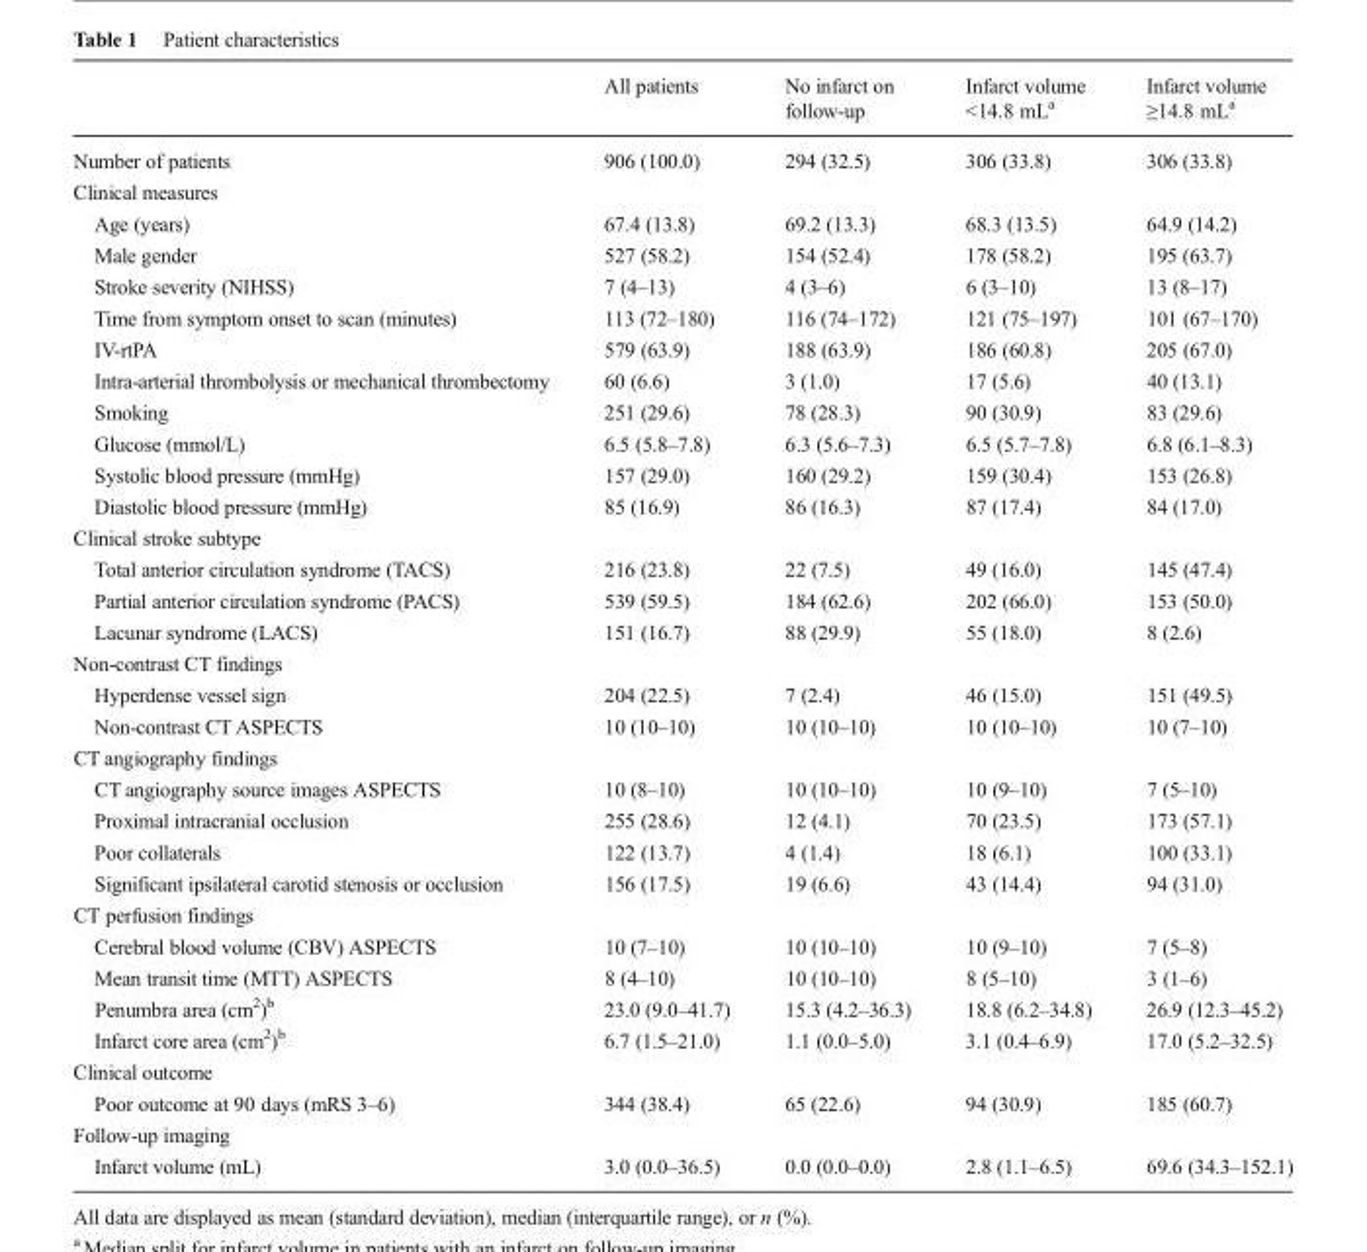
<table><thead><tr><td></td><td>All patients</td><td>No infarct on follow-up</td><td>Infarct volume &lt;14.8 mL<sup>a</sup></td><td>Infarct volume ≥14.8 mL<sup>a</sup></td></tr></thead><tbody><tr><td>Number of patients</td><td>906 (100.0)</td><td>294 (32.5)</td><td>306 (33.8)</td><td>306 (33.8)</td></tr><tr><td colspan="5">Clinical measures</td></tr><tr><td>Age (years)</td><td>67.4 (13.8)</td><td>69.2 (13.3)</td><td>68.3 (13.5)</td><td>64.9 (14.2)</td></tr><tr><td>Male gender</td><td>527 (58.2)</td><td>154 (52.4)</td><td>178 (58.2)</td><td>195 (63.7)</td></tr><tr><td>Stroke severity (NIHSS)</td><td>7 (4–13)</td><td>4 (3–6)</td><td>6 (3–10)</td><td>13 (8–17)</td></tr><tr><td>Time from symptom onset to scan (minutes)</td><td>113 (72–180)</td><td>116 (74–172)</td><td>121 (75–197)</td><td>101 (67–170)</td></tr><tr><td>IV-rtPA</td><td>579 (63.9)</td><td>188 (63.9)</td><td>186 (60.8)</td><td>205 (67.0)</td></tr><tr><td>Intra-arterial thrombolysis or mechanical thrombectomy</td><td>60 (6.6)</td><td>3 (1.0)</td><td>17 (5.6)</td><td>40 (13.1)</td></tr><tr><td>Smoking</td><td>251 (29.6)</td><td>78 (28.3)</td><td>90 (30.9)</td><td>83 (29.6)</td></tr><tr><td>Glucose (mmol/L)</td><td>6.5 (5.8–7.8)</td><td>6.3 (5.6–7.3)</td><td>6.5 (5.7–7.8)</td><td>6.8 (6.1–8.3)</td></tr><tr><td>Systolic blood pressure (mmHg)</td><td>157 (29.0)</td><td>160 (29.2)</td><td>159 (30.4)</td><td>153 (26.8)</td></tr><tr><td>Diastolic blood pressure (mmHg)</td><td>85 (16.9)</td><td>86 (16.3)</td><td>87 (17.4)</td><td>84 (17.0)</td></tr><tr><td colspan="5">Clinical stroke subtype</td></tr><tr><td>Total anterior circulation syndrome (TACS)</td><td>216 (23.8)</td><td>22 (7.5)</td><td>49 (16.0)</td><td>145 (47.4)</td></tr><tr><td>Partial anterior circulation syndrome (PACS)</td><td>539 (59.5)</td><td>184 (62.6)</td><td>202 (66.0)</td><td>153 (50.0)</td></tr><tr><td>Lacunar syndrome (LACS)</td><td>151 (16.7)</td><td>88 (29.9)</td><td>55 (18.0)</td><td>8 (2.6)</td></tr><tr><td colspan="5">Non-contrast CT findings</td></tr><tr><td>Hyperdense vessel sign</td><td>204 (22.5)</td><td>7 (2.4)</td><td>46 (15.0)</td><td>151 (49.5)</td></tr><tr><td>Non-contrast CT ASPECTS</td><td>10 (10–10)</td><td>10 (10–10)</td><td>10 (10–10)</td><td>10 (7–10)</td></tr><tr><td colspan="5">CT angiography findings</td></tr><tr><td>CT angiography source images ASPECTS</td><td>10 (8–10)</td><td>10 (10–10)</td><td>10 (9–10)</td><td>7 (5–10)</td></tr><tr><td>Proximal intracranial occlusion</td><td>255 (28.6)</td><td>12 (4.1)</td><td>70 (23.5)</td><td>173 (57.1)</td></tr><tr><td>Poor collaterals</td><td>122 (13.7)</td><td>4 (1.4)</td><td>18 (6.1)</td><td>100 (33.1)</td></tr><tr><td>Significant ipsilateral carotid stenosis or occlusion</td><td>156 (17.5)</td><td>19 (6.6)</td><td>43 (14.4)</td><td>94 (31.0)</td></tr><tr><td colspan="5">CT perfusion findings</td></tr><tr><td>Cerebral blood volume (CBV) ASPECTS</td><td>10 (7–10)</td><td>10 (10–10)</td><td>10 (9–10)</td><td>7 (5–8)</td></tr><tr><td>Mean transit time (MTT) ASPECTS</td><td>8 (4–10)</td><td>10 (10–10)</td><td>8 (5–10)</td><td>3 (1–6)</td></tr><tr><td>Penumbra area (cm<sup>2</sup>)<sup>b</sup></td><td>23.0 (9.0–41.7)</td><td>15.3 (4.2–36.3)</td><td>18.8 (6.2–34.8)</td><td>26.9 (12.3–45.2)</td></tr><tr><td>Infarct core area (cm<sup>2</sup>)<sup>b</sup></td><td>6.7 (1.5–21.0)</td><td>1.1 (0.0–5.0)</td><td>3.1 (0.4–6.9)</td><td>17.0 (5.2–32.5)</td></tr><tr><td colspan="5">Clinical outcome</td></tr><tr><td>Poor outcome at 90 days (mRS 3–6)</td><td>344 (38.4)</td><td>65 (22.6)</td><td>94 (30.9)</td><td>185 (60.7)</td></tr><tr><td colspan="5">Follow-up imaging</td></tr><tr><td>Infarct volume (mL)</td><td>3.0 (0.0–36.5)</td><td>0.0 (0.0–0.0)</td><td>2.8 (1.1–6.5)</td><td>69.6 (34.3–152.1)</td></tr></tbody></table>